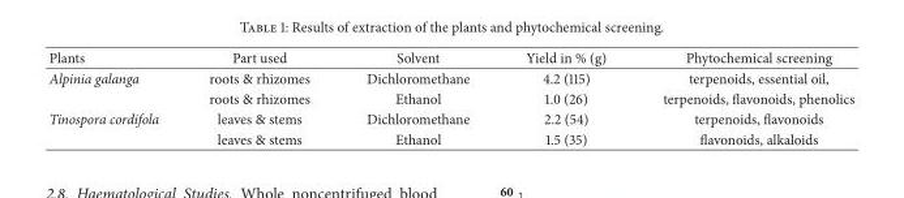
<table><thead><tr><td>Plants</td><td>Part used</td><td>Solvent</td><td>Yield in % (g)</td><td>Phytochemical screening</td></tr></thead><tbody><tr><td rowspan="2">Alpinia galanga</td><td>roots &amp; rhizomes</td><td>Dichloromethane</td><td>4.2 (115)</td><td>terpenoids, essential oil,</td></tr><tr><td>roots &amp; rhizomes</td><td>Ethanol</td><td>1.0 (26)</td><td>terpenoids, flavonoids, phenolics</td></tr><tr><td rowspan="2">Tinospora cordifola</td><td>leaves &amp; stems</td><td>Dichloromethane</td><td>2.2 (54)</td><td>terpenoids, flavonoids</td></tr><tr><td>leaves &amp; stems</td><td>Ethanol</td><td>1.5 (35)</td><td>flavonoids, alkaloids</td></tr></tbody></table>